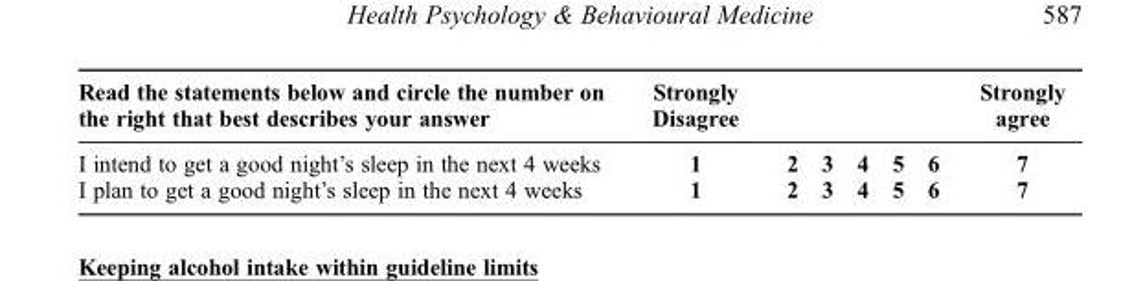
<table><thead><tr><td>Read the statements below and circle the number on the right that best describes your answer</td><td>Strongly Disagree</td><td></td><td></td><td></td><td></td><td></td><td>Strongly agree</td></tr></thead><tbody><tr><td>I intend to get a good night’s sleep in the next 4 weeks</td><td>1</td><td>2</td><td>3</td><td>4</td><td>5</td><td>6</td><td>7</td></tr><tr><td>I plan to get a good night’s sleep in the next 4 weeks</td><td>1</td><td>2</td><td>3</td><td>4</td><td>5</td><td>6</td><td>7</td></tr></tbody></table>